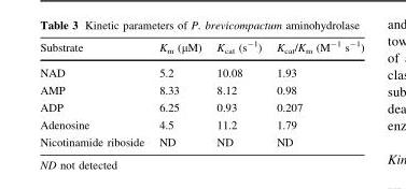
<table><thead><tr><td>Substrate</td><td>K<sub>m</sub> (µM)</td><td>K<sub>cat</sub> (s<sup>-1</sup>)</td><td>K<sub>cat</sub>/K<sub>m</sub> (M<sup>-1</sup> s<sup>-1</sup>)</td></tr></thead><tbody><tr><td>NAD</td><td>5.2</td><td>10.08</td><td>1.93</td></tr><tr><td>AMP</td><td>8.33</td><td>8.12</td><td>0.98</td></tr><tr><td>ADP</td><td>6.25</td><td>0.93</td><td>0.207</td></tr><tr><td>Adenosine</td><td>4.5</td><td>11.2</td><td>1.79</td></tr><tr><td>Nicotinamide riboside</td><td>ND</td><td>ND</td><td>ND</td></tr></tbody></table>